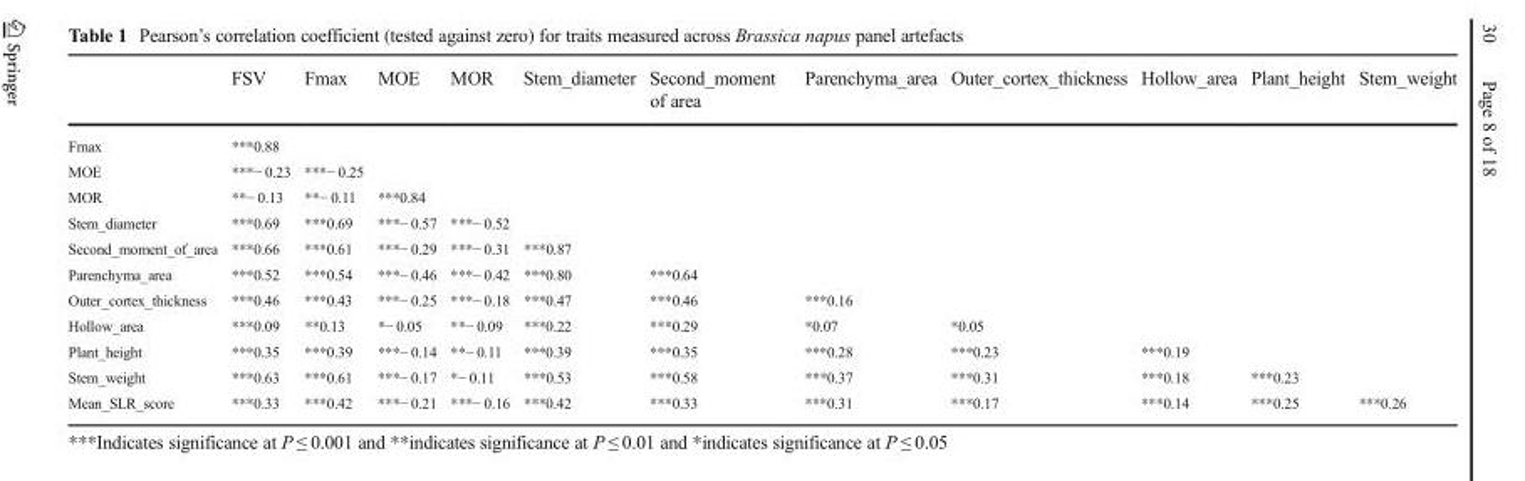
<table><thead><tr><td></td><td>FSV</td><td>Fmax</td><td>MOE</td><td>MOR</td><td>Stem_diameter</td><td>Second_moment of area</td><td>Parenchyma_area</td><td>Outer_cortex_thickness</td><td>Hollow_area</td><td>Plant_height</td><td>Stem_weight</td></tr></thead><tbody><tr><td>Fmax</td><td>***0.88</td><td></td><td></td><td></td><td></td><td></td><td></td><td></td><td></td><td></td><td></td></tr><tr><td>MOE</td><td>***− 0.23</td><td>***− 0.25</td><td></td><td></td><td></td><td></td><td></td><td></td><td></td><td></td><td></td></tr><tr><td>MOR</td><td>**− 0.13</td><td>**− 0.11</td><td>***0.84</td><td></td><td></td><td></td><td></td><td></td><td></td><td></td><td></td></tr><tr><td>Stem_diameter</td><td>***0.69</td><td>***0.69</td><td>***− 0.57</td><td>***− 0.52</td><td></td><td></td><td></td><td></td><td></td><td></td><td></td></tr><tr><td>Second_moment_of_area</td><td>***0.66</td><td>***0.61</td><td>***− 0.29</td><td>***− 0.31</td><td>***0.87</td><td></td><td></td><td></td><td></td><td></td><td></td></tr><tr><td>Parenchyma_area</td><td>***0.52</td><td>***0.54</td><td>***− 0.46</td><td>***− 0.42</td><td>***0.80</td><td>***0.64</td><td></td><td></td><td></td><td></td><td></td></tr><tr><td>Outer_cortex_thickness</td><td>***0.46</td><td>***0.43</td><td>***− 0.25</td><td>***− 0.18</td><td>***0.47</td><td>***0.46</td><td>***0.16</td><td></td><td></td><td></td><td></td></tr><tr><td>Hollow_area</td><td>***0.09</td><td>**0.13</td><td>*− 0.05</td><td>**− 0.09</td><td>***0.22</td><td>***0.29</td><td>*0.07</td><td>*0.05</td><td></td><td></td><td></td></tr><tr><td>Plant_height</td><td>***0.35</td><td>***0.39</td><td>***− 0.14</td><td>**− 0.11</td><td>***0.39</td><td>***0.35</td><td>***0.28</td><td>***0.23</td><td>***0.19</td><td></td><td></td></tr><tr><td>Stem_weight</td><td>***0.63</td><td>***0.61</td><td>***− 0.17</td><td>*− 0.11</td><td>***0.53</td><td>***0.58</td><td>***0.37</td><td>***0.31</td><td>***0.18</td><td>***0.23</td><td></td></tr><tr><td>Mean_SLR_score</td><td>***0.33</td><td>***0.42</td><td>***− 0.21</td><td>***− 0.16</td><td>***0.42</td><td>***0.33</td><td>***0.31</td><td>***0.17</td><td>***0.14</td><td>***0.25</td><td>***0.26</td></tr></tbody></table>